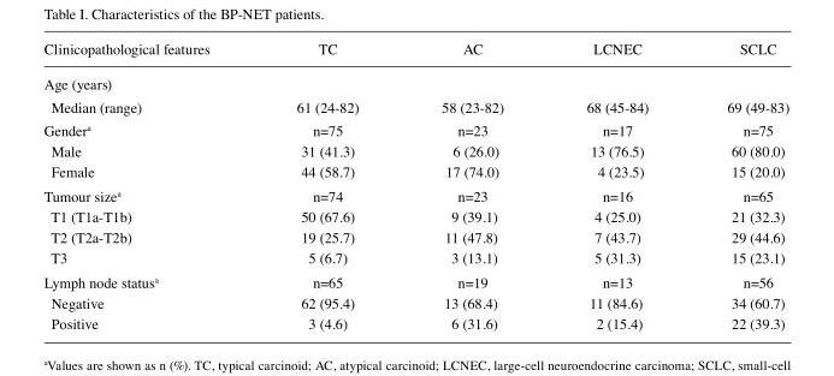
<table><thead><tr><td>Clinicopathological features</td><td>TC</td><td>AC</td><td>LCNEC</td><td>SCLC</td></tr></thead><tbody><tr><td colspan="5">Age (years)</td></tr><tr><td>Median (range)</td><td>61 (24-82)</td><td>58 (23-82)</td><td>68 (45-84)</td><td>69 (49-83)</td></tr><tr><td>Gender<sup>a</sup></td><td>n=75</td><td>n=23</td><td>n=17</td><td>n=75</td></tr><tr><td>Male</td><td>31 (41.3)</td><td>6 (26.0)</td><td>13 (76.5)</td><td>60 (80.0)</td></tr><tr><td>Female</td><td>44 (58.7)</td><td>17 (74.0)</td><td>4 (23.5)</td><td>15 (20.0)</td></tr><tr><td>Tumour size<sup>a</sup></td><td>n=74</td><td>n=23</td><td>n=16</td><td>n=65</td></tr><tr><td>T1 (T1a-T1b)</td><td>50 (67.6)</td><td>9 (39.1)</td><td>4 (25.0)</td><td>21 (32.3)</td></tr><tr><td>T2 (T2a-T2b)</td><td>19 (25.7)</td><td>11 (47.8)</td><td>7 (43.7)</td><td>29 (44.6)</td></tr><tr><td>T3</td><td>5 (6.7)</td><td>3 (13.1)</td><td>5 (31.3)</td><td>15 (23.1)</td></tr><tr><td>Lymph node status<sup>a</sup></td><td>n=65</td><td>n=19</td><td>n=13</td><td>n=56</td></tr><tr><td>Negative</td><td>62 (95.4)</td><td>13 (68.4)</td><td>11 (84.6)</td><td>34 (60.7)</td></tr><tr><td>Positive</td><td>3 (4.6)</td><td>6 (31.6)</td><td>2 (15.4)</td><td>22 (39.3)</td></tr></tbody></table>